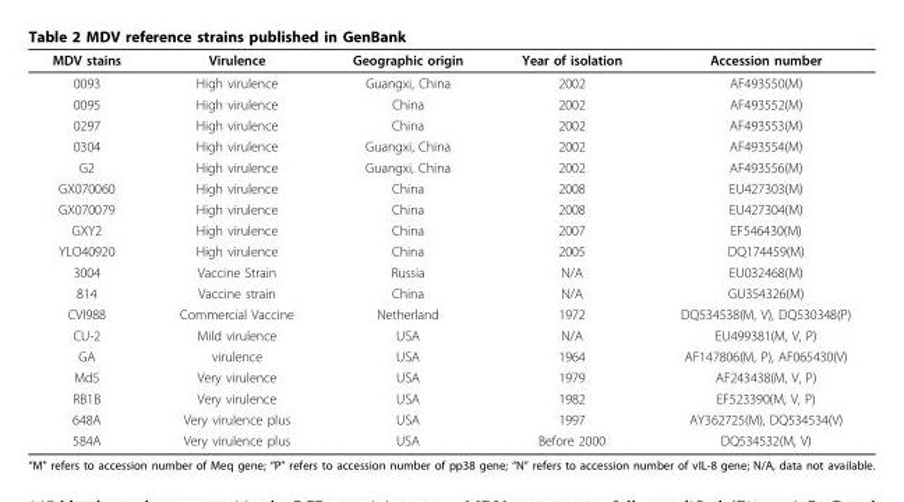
<table><thead><tr><td>MDV stains</td><td>Virulence</td><td>Geographic origin</td><td>Year of isolation</td><td>Accession number</td></tr></thead><tbody><tr><td>0093</td><td>High virulence</td><td>Guangxi, China</td><td>2002</td><td>AF493550(M)</td></tr><tr><td>0095</td><td>High virulence</td><td>China</td><td>2002</td><td>AF493552(M)</td></tr><tr><td>0297</td><td>High virulence</td><td>China</td><td>2002</td><td>AF493553(M)</td></tr><tr><td>0304</td><td>High virulence</td><td>Guangxi, China</td><td>2002</td><td>AF493554(M)</td></tr><tr><td>G2</td><td>High virulence</td><td>Guangxi, China</td><td>2002</td><td>AF493556(M)</td></tr><tr><td>GX070060</td><td>High virulence</td><td>China</td><td>2008</td><td>EU427303(M)</td></tr><tr><td>GX070079</td><td>High virulence</td><td>China</td><td>2008</td><td>EU427304(M)</td></tr><tr><td>GXY2</td><td>High virulence</td><td>China</td><td>2007</td><td>EF546430(M)</td></tr><tr><td>YLO40920</td><td>High virulence</td><td>China</td><td>2005</td><td>DQ174459(M)</td></tr><tr><td>3004</td><td>Vaccine Strain</td><td>Russia</td><td>N/A</td><td>EU032468(M)</td></tr><tr><td>814</td><td>Vaccine strain</td><td>China</td><td>N/A</td><td>GU354326(M)</td></tr><tr><td>CVI988</td><td>Commercial Vaccine</td><td>Netherland</td><td>1972</td><td>DQ534538(M, V), DQ530348(P)</td></tr><tr><td>CU-2</td><td>Mild virulence</td><td>USA</td><td>N/A</td><td>EU499381(M, V, P)</td></tr><tr><td>GA</td><td>virulence</td><td>USA</td><td>1964</td><td>AF147806(M, P), AF065430(V)</td></tr><tr><td>Md5</td><td>Very virulence</td><td>USA</td><td>1979</td><td>AF243438(M, V, P)</td></tr><tr><td>RB1B</td><td>Very virulence</td><td>USA</td><td>1982</td><td>EF523390(M, V, P)</td></tr><tr><td>648A</td><td>Very virulence plus</td><td>USA</td><td>1997</td><td>AY362725(M), DQ534534(V)</td></tr><tr><td>584A</td><td>Very virulence plus</td><td>USA</td><td>Before 2000</td><td>DQ534532(M, V)</td></tr></tbody></table>